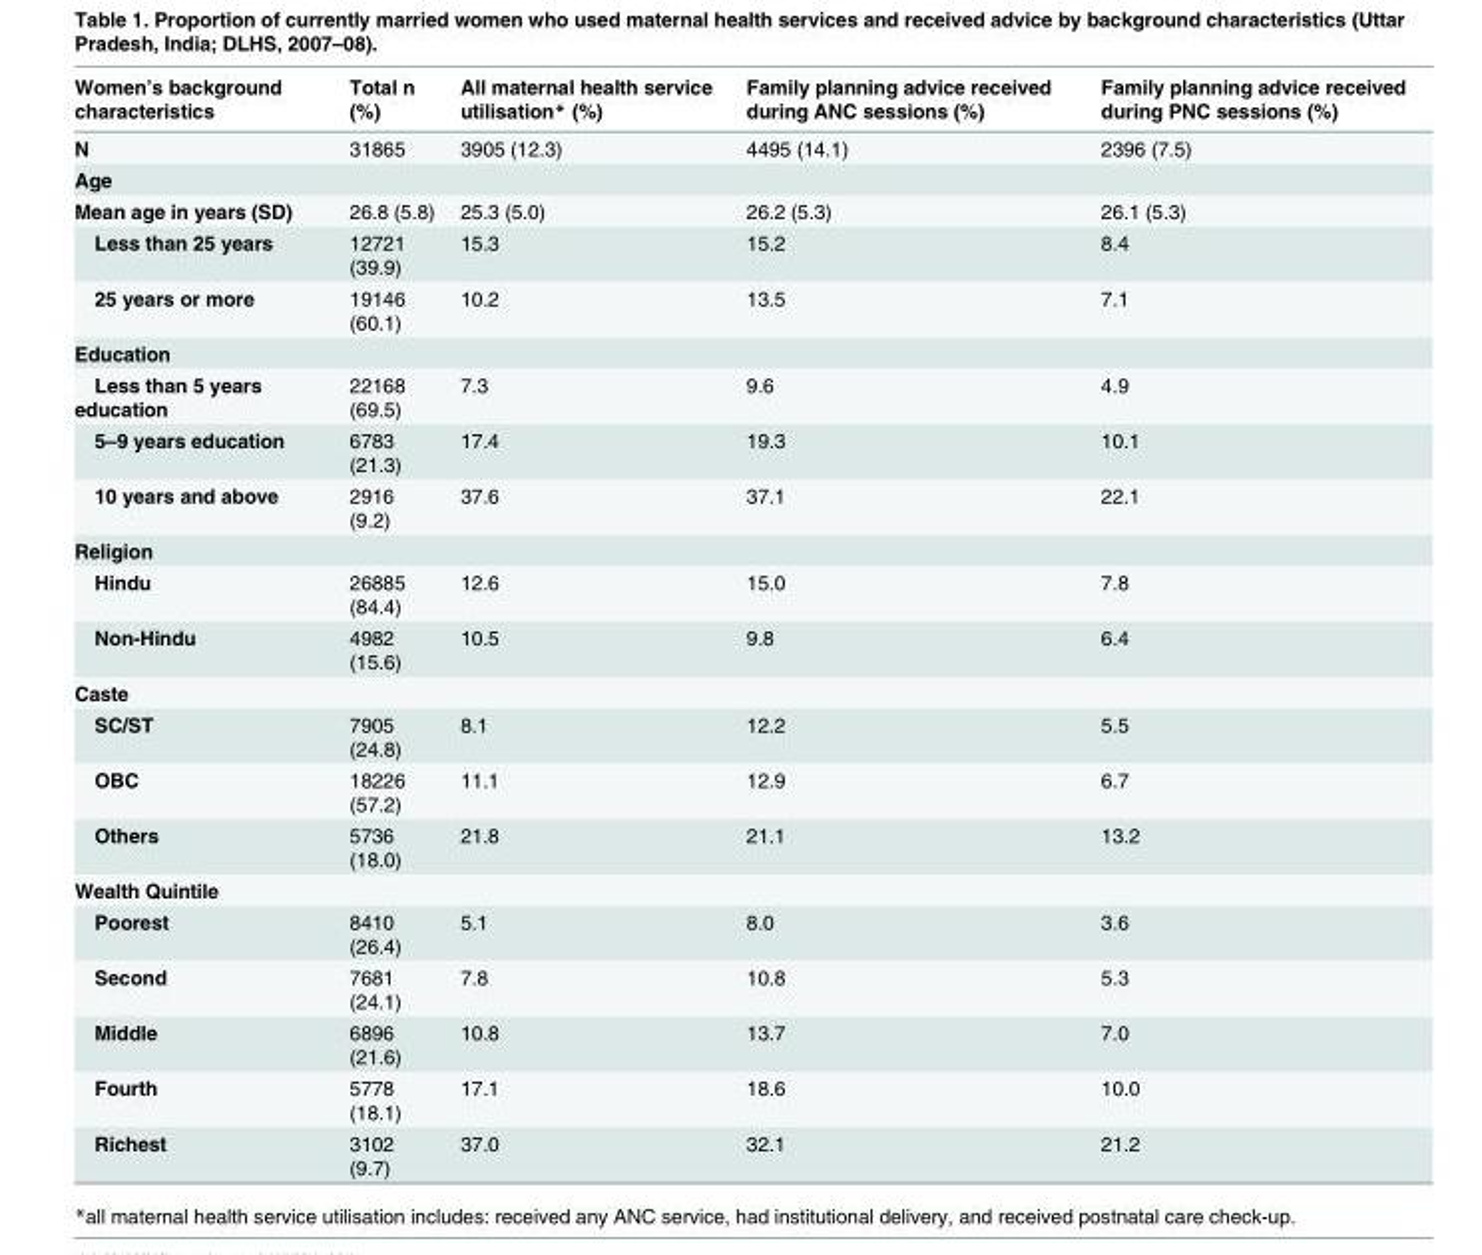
<table><thead><tr><td>Women’s background characteristics</td><td>Total n (%)</td><td>All maternal health service utilisation* (%)</td><td>Family planning advice received during ANC sessions (%)</td><td>Family planning advice received during PNC sessions (%)</td></tr></thead><tbody><tr><td>N</td><td>31865</td><td>3905 (12.3)</td><td>4495 (14.1)</td><td>2396 (7.5)</td></tr><tr><td colspan="5">Age</td></tr><tr><td>Mean age in years (SD)</td><td>26.8 (5.8)</td><td>25.3 (5.0)</td><td>26.2 (5.3)</td><td>26.1 (5.3)</td></tr><tr><td>Less than 25 years</td><td>12721 (39.9)</td><td>15.3</td><td>15.2</td><td>8.4</td></tr><tr><td>25 years or more</td><td>19146 (60.1)</td><td>10.2</td><td>13.5</td><td>7.1</td></tr><tr><td colspan="5">Education</td></tr><tr><td>Less than 5 years education</td><td>22168 (69.5)</td><td>7.3</td><td>9.6</td><td>4.9</td></tr><tr><td>5–9 years education</td><td>6783 (21.3)</td><td>17.4</td><td>19.3</td><td>10.1</td></tr><tr><td>10 years and above</td><td>2916 (9.2)</td><td>37.6</td><td>37.1</td><td>22.1</td></tr><tr><td colspan="5">Religion</td></tr><tr><td>Hindu</td><td>26885 (84.4)</td><td>12.6</td><td>15.0</td><td>7.8</td></tr><tr><td>Non-Hindu</td><td>4982 (15.6)</td><td>10.5</td><td>9.8</td><td>6.4</td></tr><tr><td colspan="5">Caste</td></tr><tr><td>SC/ST</td><td>7905 (24.8)</td><td>8.1</td><td>12.2</td><td>5.5</td></tr><tr><td>OBC</td><td>18226 (57.2)</td><td>11.1</td><td>12.9</td><td>6.7</td></tr><tr><td>Others</td><td>5736 (18.0)</td><td>21.8</td><td>21.1</td><td>13.2</td></tr><tr><td colspan="5">Wealth Quintile</td></tr><tr><td>Poorest</td><td>8410 (26.4)</td><td>5.1</td><td>8.0</td><td>3.6</td></tr><tr><td>Second</td><td>7681 (24.1)</td><td>7.8</td><td>10.8</td><td>5.3</td></tr><tr><td>Middle</td><td>6896 (21.6)</td><td>10.8</td><td>13.7</td><td>7.0</td></tr><tr><td>Fourth</td><td>5778 (18.1)</td><td>17.1</td><td>18.6</td><td>10.0</td></tr><tr><td>Richest</td><td>3102 (9.7)</td><td>37.0</td><td>32.1</td><td>21.2</td></tr></tbody></table>